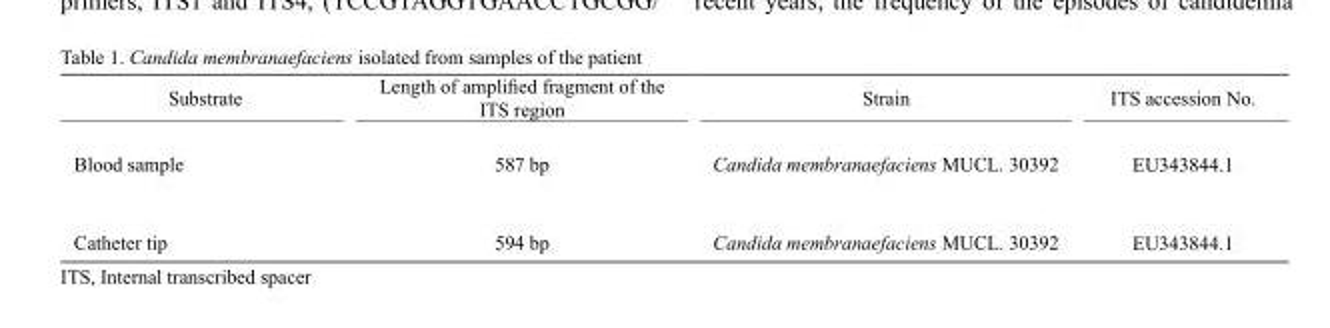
<table><thead><tr><td>Substrate</td><td>Length of amplified fragment of the ITS region</td><td>Strain</td><td>ITS accession No.</td></tr></thead><tbody><tr><td>Blood sample</td><td>587 bp</td><td>Candida membranaefaciens MUCL. 30392</td><td>EU343844.1</td></tr><tr><td>Catheter tip</td><td>594 bp</td><td>Candida membranaefaciens MUCL. 30392</td><td>EU343844.1</td></tr></tbody></table>